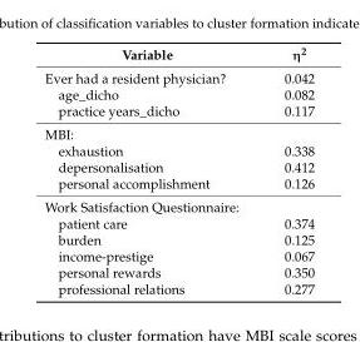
<table><thead><tr><td>Variable</td><td>η<sup>2</sup></td></tr></thead><tbody><tr><td>Ever had a resident physician?</td><td>0.042</td></tr><tr><td>age_dicho</td><td>0.082</td></tr><tr><td>practice years_dicho</td><td>0.117</td></tr><tr><td colspan="2">MBI:</td></tr><tr><td>exhaustion</td><td>0.338</td></tr><tr><td>depersonalisation</td><td>0.412</td></tr><tr><td>personal accomplishment</td><td>0.126</td></tr><tr><td colspan="2">Work Satisfaction Questionnaire:</td></tr><tr><td>patient care</td><td>0.374</td></tr><tr><td>burden</td><td>0.125</td></tr><tr><td>income-prestige</td><td>0.067</td></tr><tr><td>personal rewards</td><td>0.350</td></tr><tr><td>professional relations</td><td>0.277</td></tr></tbody></table>